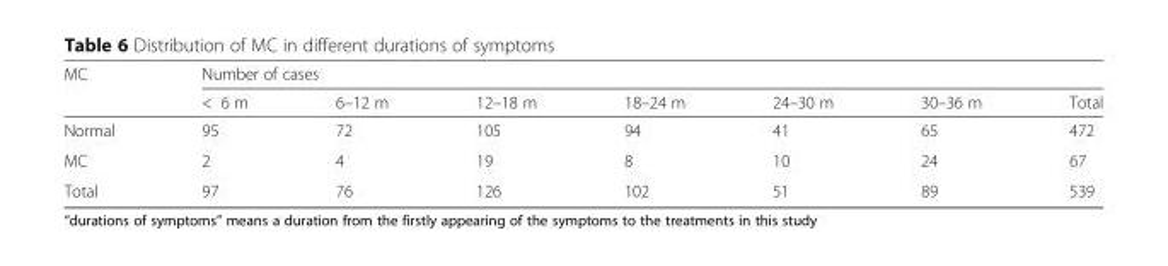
<table><thead><tr><td rowspan="2">MC</td><td colspan="7">Number of cases</td></tr><tr><td>&lt; 6 m</td><td>6–12 m</td><td>12–18 m</td><td>18–24 m</td><td>24–30 m</td><td>30–36 m</td><td>Total</td></tr></thead><tbody><tr><td>Normal</td><td>95</td><td>72</td><td>105</td><td>94</td><td>41</td><td>65</td><td>472</td></tr><tr><td>MC</td><td>2</td><td>4</td><td>19</td><td>8</td><td>10</td><td>24</td><td>67</td></tr><tr><td>Total</td><td>97</td><td>76</td><td>126</td><td>102</td><td>51</td><td>89</td><td>539</td></tr></tbody></table>